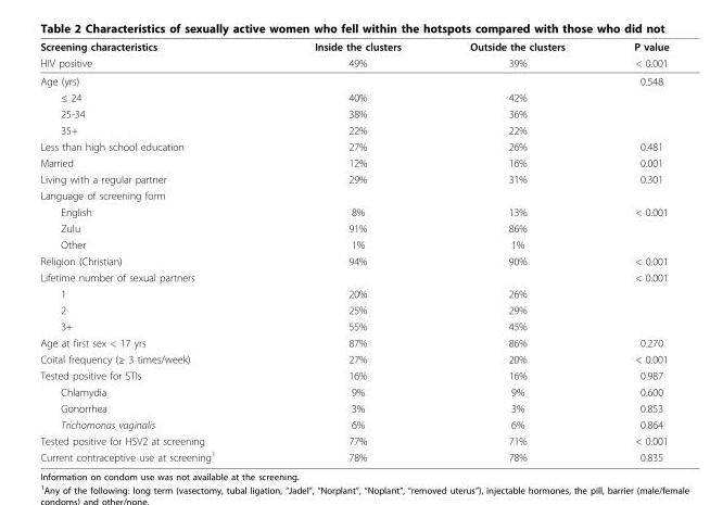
<table><thead><tr><td>Screening characteristics</td><td>Inside the clusters</td><td>Outside the clusters</td><td>P value</td></tr></thead><tbody><tr><td>HIV positive</td><td>49%</td><td>39%</td><td>&lt; 0.001</td></tr><tr><td>Age (yrs)</td><td></td><td></td><td>0.548</td></tr><tr><td>≤ 24</td><td>40%</td><td>42%</td><td></td></tr><tr><td>25-34</td><td>38%</td><td>36%</td><td></td></tr><tr><td>35+</td><td>22%</td><td>22%</td><td></td></tr><tr><td>Less than high school education</td><td>27%</td><td>26%</td><td>0.481</td></tr><tr><td>Married</td><td>12%</td><td>16%</td><td>0.001</td></tr><tr><td>Living with a regular partner</td><td>29%</td><td>31%</td><td>0.301</td></tr><tr><td colspan="4">Language of screening form</td></tr><tr><td>English</td><td>8%</td><td>13%</td><td>&lt; 0.001</td></tr><tr><td>Zulu</td><td>91%</td><td>86%</td><td></td></tr><tr><td>Other</td><td>1%</td><td>1%</td><td></td></tr><tr><td>Religion (Christian)</td><td>94%</td><td>90%</td><td>&lt; 0.001</td></tr><tr><td>Lifetime number of sexual partners</td><td></td><td></td><td>&lt; 0.001</td></tr><tr><td>1</td><td>20%</td><td>26%</td><td></td></tr><tr><td>2</td><td>25%</td><td>29%</td><td></td></tr><tr><td>3+</td><td>55%</td><td>45%</td><td></td></tr><tr><td>Age at first sex &lt; 17 yrs</td><td>87%</td><td>86%</td><td>0.270</td></tr><tr><td>Coital frequency (≥ 3 times/week)</td><td>27%</td><td>20%</td><td>&lt; 0.001</td></tr><tr><td>Tested positive for STIs</td><td>16%</td><td>16%</td><td>0.987</td></tr><tr><td>Chlamydia</td><td>9%</td><td>9%</td><td>0.600</td></tr><tr><td>Gonorrhea</td><td>3%</td><td>3%</td><td>0.853</td></tr><tr><td>Trichomonas vaginalis</td><td>6%</td><td>6%</td><td>0.864</td></tr><tr><td>Tested positive for HSV2 at screening</td><td>77%</td><td>71%</td><td>&lt; 0.001</td></tr><tr><td>Current contraceptive use at screening<sup>1</sup></td><td>78%</td><td>78%</td><td>0.835</td></tr></tbody></table>